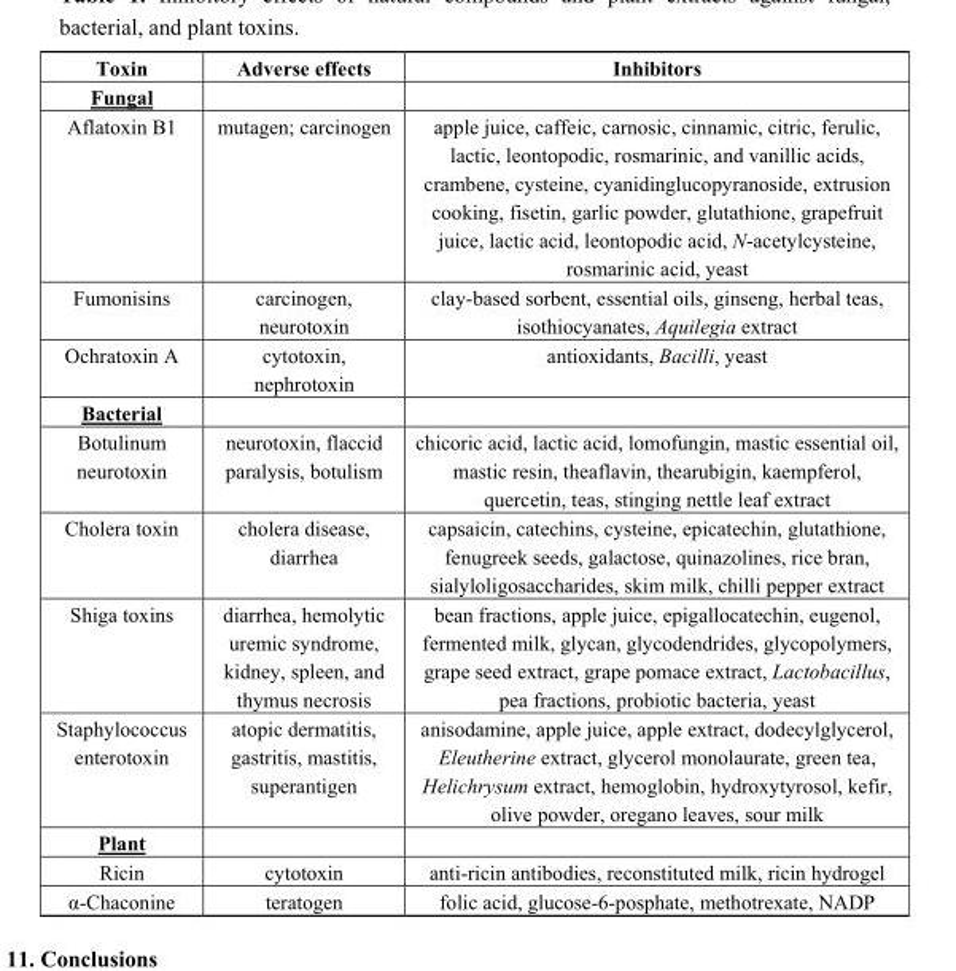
<table><thead><tr><td>Toxin</td><td>Adverse effects</td><td>Inhibitors</td></tr></thead><tbody><tr><td colspan="3">Fungal</td></tr><tr><td>Aflatoxin B1</td><td>mutagen; carcinogen</td><td>apple juice, caffeic, carnosic, cinnamic, citric, ferulic, lactic, leontopodic, rosmarinic, and vanillic acids, crambene, cysteine, cyanidinglucopyranoside, extrusion cooking, fisetin, garlic powder, glutathione, grapefruit juice, lactic acid, leontopodic acid, N-acetylcysteine, rosmarinic acid, yeast</td></tr><tr><td>Fumonisins</td><td>carcinogen, neurotoxin</td><td>clay-based sorbent, essential oils, ginseng, herbal teas, isothiocyanates, Aquilegia extract</td></tr><tr><td>Ochratoxin A</td><td>cytotoxin, nephrotoxin</td><td>antioxidants, Bacilli, yeast</td></tr><tr><td colspan="3">Bacterial</td></tr><tr><td>Botulinum neurotoxin</td><td>neurotoxin, flaccid paralysis, botulism</td><td>chicoric acid, lactic acid, lomofungin, mastic essential oil, mastic resin, theaflavin, thearubigin, kaempferol, quercetin, teas, stinging nettle leaf extract</td></tr><tr><td>Cholera toxin</td><td>cholera disease, diarrhea</td><td>capsaicin, catechins, cysteine, epicatechin, glutathione, fenugreek seeds, galactose, quinazolines, rice bran, sialyloligosaccharides, skim milk, chilli pepper extract</td></tr><tr><td>Shiga toxins</td><td>diarrhea, hemolytic uremic syndrome, kidney, spleen, and thymus necrosis</td><td>bean fractions, apple juice, epigallocatechin, eugenol, fermented milk, glycan, glycodendrides, glycopolymers, grape seed extract, grape pomace extract, Lactobacillus, pea fractions, probiotic bacteria, yeast</td></tr><tr><td>Staphylococcus enterotoxin</td><td>atopic dermatitis, gastritis, mastitis, superantigen</td><td>anisodamine, apple juice, apple extract, dodecylglycerol, Eleutherine extract, glycerol monolaurate, green tea, Helichrysum extract, hemoglobin, hydroxytyrosol, kefir, olive powder, oregano leaves, sour milk</td></tr><tr><td colspan="3">Plant</td></tr><tr><td>Ricin</td><td>cytotoxin</td><td>anti-ricin antibodies, reconstituted milk, ricin hydrogel</td></tr><tr><td>α-Chaconine</td><td>teratogen</td><td>folic acid, glucose-6-posphate, methotrexate, NADP</td></tr></tbody></table>